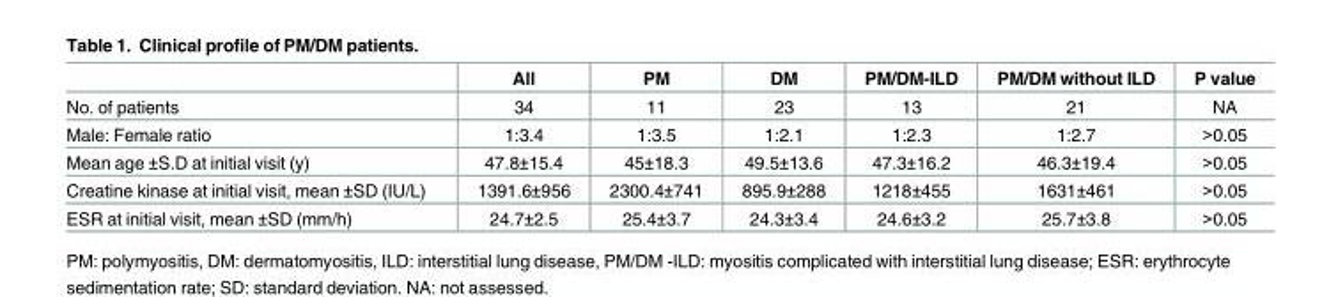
<table><thead><tr><td></td><td>All</td><td>PM</td><td>DM</td><td>PM/DM-ILD</td><td>PM/DM without ILD</td><td>P value</td></tr></thead><tbody><tr><td>No. of patients</td><td>34</td><td>11</td><td>23</td><td>13</td><td>21</td><td>NA</td></tr><tr><td>Male: Female ratio</td><td>1:3.4</td><td>1:3.5</td><td>1:2.1</td><td>1:2.3</td><td>1:2.7</td><td>&gt;0.05</td></tr><tr><td>Mean age ±S.D at initial visit (y)</td><td>47.8±15.4</td><td>45±18.3</td><td>49.5±13.6</td><td>47.3±16.2</td><td>46.3±19.4</td><td>&gt;0.05</td></tr><tr><td>Creatine kinase at initial visit, mean ±SD (IU/L)</td><td>1391.6±956</td><td>2300.4±741</td><td>895.9±288</td><td>1218±455</td><td>1631±461</td><td>&gt;0.05</td></tr><tr><td>ESR at initial visit, mean ±SD (mm/h)</td><td>24.7±2.5</td><td>25.4±3.7</td><td>24.3±3.4</td><td>24.6±3.2</td><td>25.7±3.8</td><td>&gt;0.05</td></tr></tbody></table>